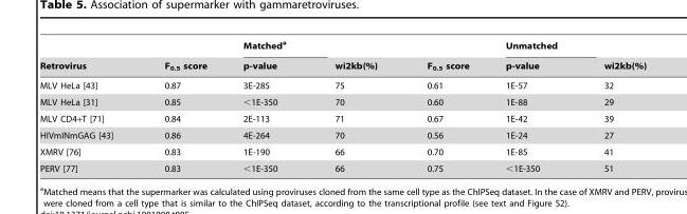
<table><thead><tr><td rowspan="2">Retrovirus</td><td rowspan="2">F<sub>0.5</sub> score</td><td rowspan="2">Matched<sup>a</sup> p-value</td><td rowspan="2">wi2kb(%)</td><td rowspan="2">F<sub>0.5</sub> score</td><td rowspan="2">Unmatched p-value</td><td rowspan="2">wi2kb(%)</td></tr><tr></tr></thead><tbody><tr><td>MLV HeLa [43]</td><td>0.87</td><td>3E-285</td><td>75</td><td>0.61</td><td>1E-57</td><td>32</td></tr><tr><td>MLV HeLa [31]</td><td>0.85</td><td>&lt;1E-350</td><td>70</td><td>0.60</td><td>1E-88</td><td>29</td></tr><tr><td>MLV CD4+T [71]</td><td>0.84</td><td>2E-113</td><td>71</td><td>0.67</td><td>1E-42</td><td>39</td></tr><tr><td>HIVmINmGAG [43]</td><td>0.86</td><td>4E-264</td><td>70</td><td>0.56</td><td>1E-24</td><td>27</td></tr><tr><td>XMRV [76]</td><td>0.83</td><td>1E-190</td><td>66</td><td>0.70</td><td>1E-85</td><td>41</td></tr><tr><td>PERV [77]</td><td>0.83</td><td>&lt;1E-350</td><td>66</td><td>0.75</td><td>&lt;1E-350</td><td>51</td></tr></tbody></table>